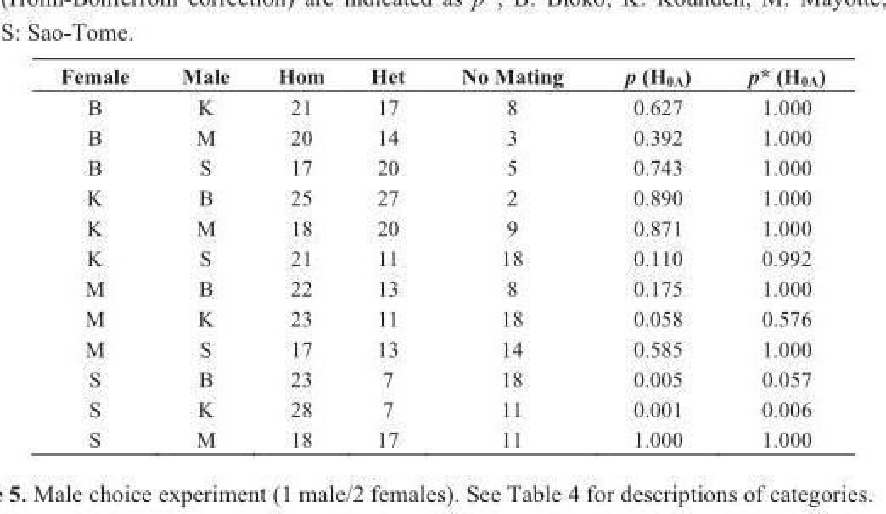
<table><thead><tr><td>Female</td><td>Male</td><td>Hom</td><td>Het</td><td>No Mating</td><td>p (H<sub>0A</sub>)</td><td>p* (H<sub>0A</sub>)</td></tr></thead><tbody><tr><td>B</td><td>K</td><td>21</td><td>17</td><td>8</td><td>0.627</td><td>1.000</td></tr><tr><td>B</td><td>M</td><td>20</td><td>14</td><td>3</td><td>0.392</td><td>1.000</td></tr><tr><td>B</td><td>S</td><td>17</td><td>20</td><td>5</td><td>0.743</td><td>1.000</td></tr><tr><td>K</td><td>B</td><td>25</td><td>27</td><td>2</td><td>0.890</td><td>1.000</td></tr><tr><td>K</td><td>M</td><td>18</td><td>20</td><td>9</td><td>0.871</td><td>1.000</td></tr><tr><td>K</td><td>S</td><td>21</td><td>11</td><td>18</td><td>0.110</td><td>0.992</td></tr><tr><td>M</td><td>B</td><td>22</td><td>13</td><td>8</td><td>0.175</td><td>1.000</td></tr><tr><td>M</td><td>K</td><td>23</td><td>11</td><td>18</td><td>0.058</td><td>0.576</td></tr><tr><td>M</td><td>S</td><td>17</td><td>13</td><td>14</td><td>0.585</td><td>1.000</td></tr><tr><td>S</td><td>B</td><td>23</td><td>7</td><td>18</td><td>0.005</td><td>0.057</td></tr><tr><td>S</td><td>K</td><td>28</td><td>7</td><td>11</td><td>0.001</td><td>0.006</td></tr><tr><td>S</td><td>M</td><td>18</td><td>17</td><td>11</td><td>1.000</td><td>1.000</td></tr></tbody></table>